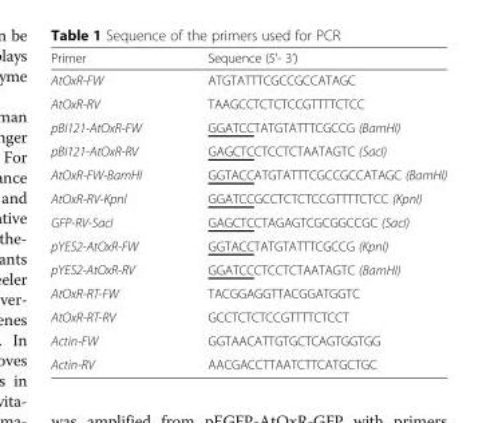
<table><thead><tr><td>Primer</td><td>Sequence (5’- 3’)</td></tr></thead><tbody><tr><td>AtOxR-FW</td><td>ATGTATTTCGCCGCCATAGC</td></tr><tr><td>AtOxR-RV</td><td>TAAGCCTCTCTCCGTTTTCTCC</td></tr><tr><td>pBI121-AtOxR-FW</td><td>GGATCCTATGTATTTCGCCG (BamHI)</td></tr><tr><td>pBI121-AtOxR-RV</td><td>GAGCTCCTCCTCTAATAGTC (SacI)</td></tr><tr><td>AtOxR-FW-BamHI</td><td>GGTACCATGTATTTCGCCGCCATAGC (BamHI)</td></tr><tr><td>AtOxR-RV-KpnI</td><td>GGATCCGCCTCTCTCCGTTTTCTCC (KpnI)</td></tr><tr><td>GFP-RV-SacI</td><td>GAGCTCCTAGAGTCGCGGCCGC (SacI)</td></tr><tr><td>pYES2-AtOxR-FW</td><td>GGTACCTATGTATTTCGCCG (KpnI)</td></tr><tr><td>pYES2-AtOxR-RV</td><td>GGATCCCTCCTCTAATAGTC (BamHI)</td></tr><tr><td>AtOxR-RT-FW</td><td>TACGGAGGTTACGGATGGTC</td></tr><tr><td>AtOxR-RT-RV</td><td>GCCTCTCTCCGTTTTCTCCT</td></tr><tr><td>Actin-FW</td><td>GGTAACATTGTGCTCAGTGGTGG</td></tr><tr><td>Actin-RV</td><td>AACGACCTTAATCTTCATGCTGC</td></tr></tbody></table>